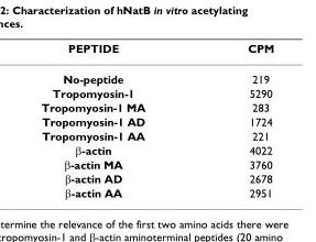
<table><thead><tr><td>PEPTIDE</td><td>CPM</td></tr></thead><tbody><tr><td>No-peptide</td><td>219</td></tr><tr><td>Tropomyosin-1</td><td>5290</td></tr><tr><td>Tropomyosin-1 MA</td><td>283</td></tr><tr><td>Tropomyosin-1 AD</td><td>1724</td></tr><tr><td>Tropomyosin-1 AA</td><td>221</td></tr><tr><td>β-actin</td><td>4022</td></tr><tr><td>β-actin MA</td><td>3760</td></tr><tr><td>β-actin AD</td><td>2678</td></tr><tr><td>β-actin AA</td><td>2951</td></tr></tbody></table>